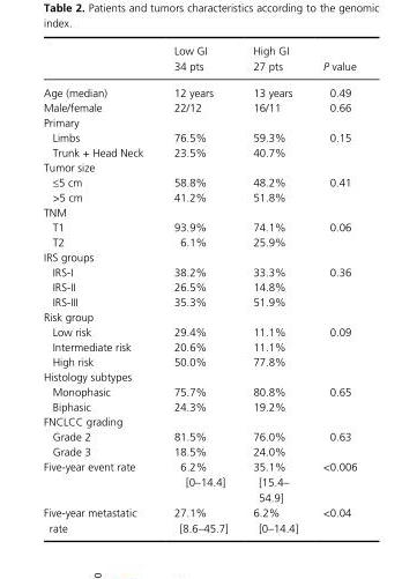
<table><thead><tr><td></td><td>Low GI 34 pts</td><td>High GI 27 pts</td><td>P value</td></tr></thead><tbody><tr><td>Age (median)</td><td>12 years</td><td>13 years</td><td>0.49</td></tr><tr><td>Male/female</td><td>22/12</td><td>16/11</td><td>0.66</td></tr><tr><td colspan="4">Primary</td></tr><tr><td>Limbs</td><td>76.5%</td><td>59.3%</td><td rowspan="2">0.15</td></tr><tr><td>Trunk + Head Neck</td><td>23.5%</td><td>40.7%</td></tr><tr><td colspan="4">Tumor size</td></tr><tr><td>≤5 cm</td><td>58.8%</td><td>48.2%</td><td rowspan="2">0.41</td></tr><tr><td>&gt;5 cm</td><td>41.2%</td><td>51.8%</td></tr><tr><td colspan="4">TNM</td></tr><tr><td>T1</td><td>93.9%</td><td>74.1%</td><td rowspan="2">0.06</td></tr><tr><td>T2</td><td>6.1%</td><td>25.9%</td></tr><tr><td colspan="4">IRS groups</td></tr><tr><td>IRS- I</td><td>38.2%</td><td>33.3%</td><td rowspan="3">0.36</td></tr><tr><td>IRS- II</td><td>26.5%</td><td>14.8%</td></tr><tr><td>IRS- III</td><td>35.3%</td><td>51.9%</td></tr><tr><td colspan="4">Risk group</td></tr><tr><td>Low risk</td><td>29.4%</td><td>11.1%</td><td rowspan="3">0.09</td></tr><tr><td>Intermediate risk</td><td>20.6%</td><td>11.1%</td></tr><tr><td>High risk</td><td>50.0%</td><td>77.8%</td></tr><tr><td colspan="4">Histology subtypes</td></tr><tr><td>Monophasic</td><td>75.7%</td><td>80.8%</td><td rowspan="2">0.65</td></tr><tr><td>Biphasic</td><td>24.3%</td><td>19.2%</td></tr><tr><td colspan="4">FNCLCC grading</td></tr><tr><td>Grade 2</td><td>81.5%</td><td>76.0%</td><td rowspan="2">0.63</td></tr><tr><td>Grade 3</td><td>18.5%</td><td>24.0%</td></tr><tr><td>Five- year event rate</td><td>6.2% [0–14.4]</td><td>35.1% [15.4– 54.9]</td><td>&lt;0.006</td></tr><tr><td>Five- year metastatic rate</td><td>27.1% [8.6–45.7]</td><td>6.2% [0–14.4]</td><td>&lt;0.04</td></tr></tbody></table>